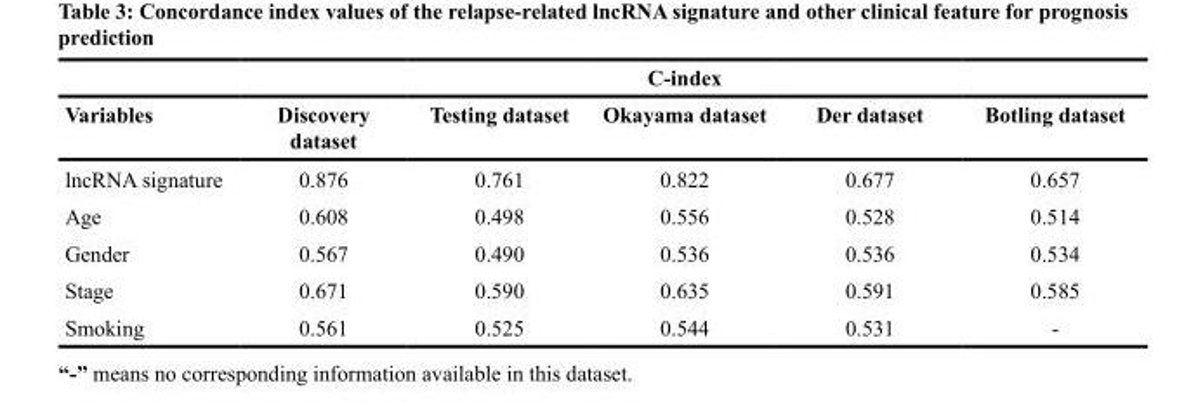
<table><thead><tr><td rowspan="2">Variables</td><td colspan="5">C-index</td></tr><tr><td>Discovery dataset</td><td>Testing dataset</td><td>Okayama dataset</td><td>Der dataset</td><td>Botling dataset</td></tr></thead><tbody><tr><td>lncRNA signature</td><td>0.876</td><td>0.761</td><td>0.822</td><td>0.677</td><td>0.657</td></tr><tr><td>Age</td><td>0.608</td><td>0.498</td><td>0.556</td><td>0.528</td><td>0.514</td></tr><tr><td>Gender</td><td>0.567</td><td>0.490</td><td>0.536</td><td>0.536</td><td>0.534</td></tr><tr><td>Stage</td><td>0.671</td><td>0.590</td><td>0.635</td><td>0.591</td><td>0.585</td></tr><tr><td>Smoking</td><td>0.561</td><td>0.525</td><td>0.544</td><td>0.531</td><td>-</td></tr></tbody></table>